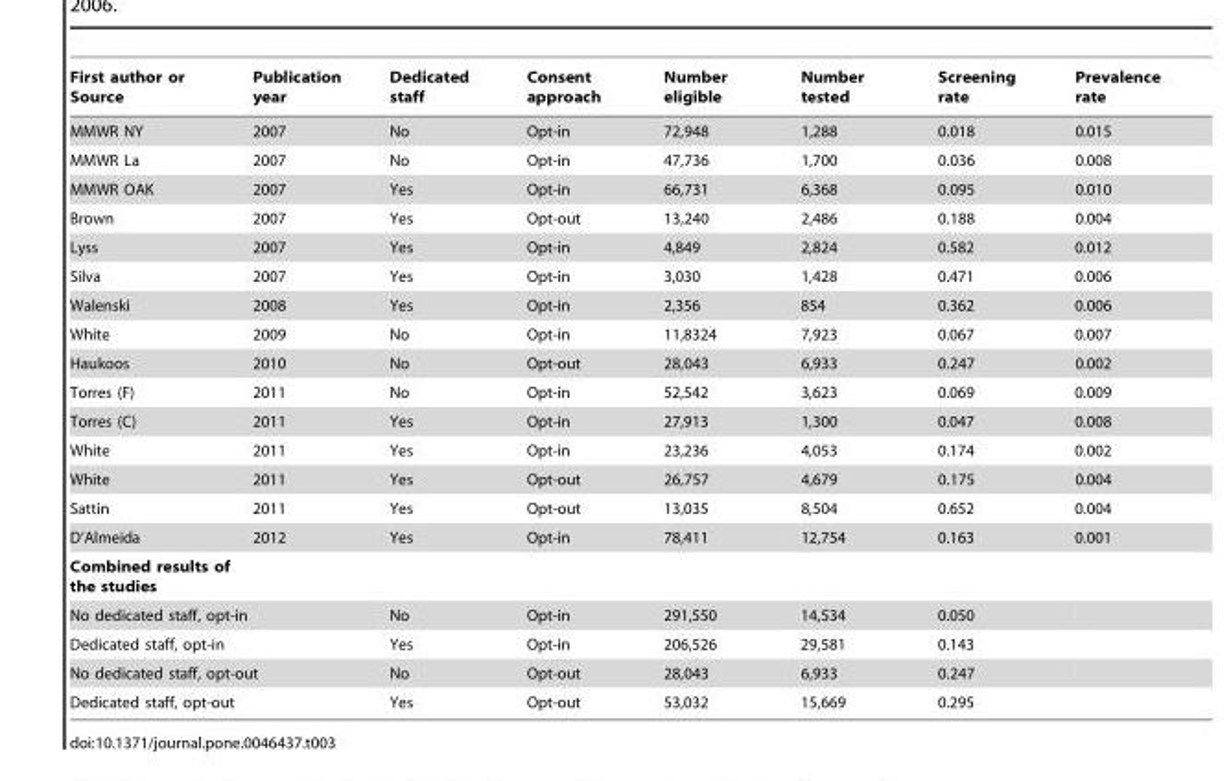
<table><thead><tr><td>First author or Source</td><td>Publication year</td><td>Dedicated staff</td><td>Consent approach</td><td>Number eligible</td><td>Number tested</td><td>Screening rate</td><td>Prevalence rate</td></tr></thead><tbody><tr><td>MMWR NY</td><td>2007</td><td>No</td><td>Opt-in</td><td>72,948</td><td>1,288</td><td>0.018</td><td>0.015</td></tr><tr><td>MMWR La</td><td>2007</td><td>No</td><td>Opt-in</td><td>47,736</td><td>1,700</td><td>0.036</td><td>0.008</td></tr><tr><td>MMWR OAK</td><td>2007</td><td>Yes</td><td>Opt-in</td><td>66,731</td><td>6,368</td><td>0.095</td><td>0.010</td></tr><tr><td>Brown</td><td>2007</td><td>Yes</td><td>Opt-out</td><td>13,240</td><td>2,486</td><td>0.188</td><td>0.004</td></tr><tr><td>Lyss</td><td>2007</td><td>Yes</td><td>Opt-in</td><td>4,849</td><td>2,824</td><td>0.582</td><td>0.012</td></tr><tr><td>Silva</td><td>2007</td><td>Yes</td><td>Opt-in</td><td>3,030</td><td>1,428</td><td>0.471</td><td>0.006</td></tr><tr><td>Walenski</td><td>2008</td><td>Yes</td><td>Opt-in</td><td>2,356</td><td>854</td><td>0.362</td><td>0.006</td></tr><tr><td>White</td><td>2009</td><td>No</td><td>Opt-in</td><td>11,8324</td><td>7,923</td><td>0.067</td><td>0.007</td></tr><tr><td>Haukoos</td><td>2010</td><td>No</td><td>Opt-out</td><td>28,043</td><td>6,933</td><td>0.247</td><td>0.002</td></tr><tr><td>Torres (F)</td><td>2011</td><td>No</td><td>Opt-in</td><td>52,542</td><td>3,623</td><td>0.069</td><td>0.009</td></tr><tr><td>Torres (C)</td><td>2011</td><td>Yes</td><td>Opt-in</td><td>27,913</td><td>1,300</td><td>0.047</td><td>0.008</td></tr><tr><td>White</td><td>2011</td><td>Yes</td><td>Opt-in</td><td>23,236</td><td>4,053</td><td>0.174</td><td>0.002</td></tr><tr><td>White</td><td>2011</td><td>Yes</td><td>Opt-out</td><td>26,757</td><td>4,679</td><td>0.175</td><td>0.004</td></tr><tr><td>Sattin</td><td>2011</td><td>Yes</td><td>Opt-out</td><td>13,035</td><td>8,504</td><td>0.652</td><td>0.004</td></tr><tr><td>D’Almeida</td><td>2012</td><td>Yes</td><td>Opt-in</td><td>78,411</td><td>12,754</td><td>0.163</td><td>0.001</td></tr><tr><td colspan="8">Combined results of the studies</td></tr><tr><td colspan="2">No dedicated staff, opt-in</td><td>No</td><td>Opt-in</td><td>291,550</td><td>14,534</td><td>0.050</td><td></td></tr><tr><td colspan="2">Dedicated staff, opt-in</td><td>Yes</td><td>Opt-in</td><td>206,526</td><td>29,581</td><td>0.143</td><td></td></tr><tr><td colspan="2">No dedicated staff, opt-out</td><td>No</td><td>Opt-out</td><td>28,043</td><td>6,933</td><td>0.247</td><td></td></tr><tr><td colspan="2">Dedicated staff, opt-out</td><td>Yes</td><td>Opt-out</td><td>53,032</td><td>15,669</td><td>0.295</td><td></td></tr></tbody></table>